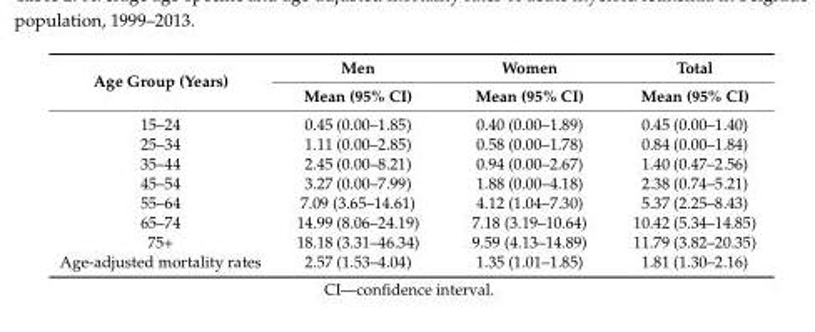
<table><thead><tr><td rowspan="2">Age Group (Years)</td><td rowspan="2">Men Mean (95% CI)</td><td rowspan="2">Women Mean (95% CI)</td><td rowspan="2">Total Mean (95% CI)</td></tr><tr></tr></thead><tbody><tr><td>15–24</td><td>0.45 (0.00–1.85)</td><td>0.40 (0.00–1.89)</td><td>0.45 (0.00–1.40)</td></tr><tr><td>25–34</td><td>1.11 (0.00–2.85)</td><td>0.58 (0.00–1.78)</td><td>0.84 (0.00–1.84)</td></tr><tr><td>35–44</td><td>2.45 (0.00–8.21)</td><td>0.94 (0.00–2.67)</td><td>1.40 (0.47–2.56)</td></tr><tr><td>45–54</td><td>3.27 (0.00–7.99)</td><td>1.88 (0.00–4.18)</td><td>2.38 (0.74–5.21)</td></tr><tr><td>55–64</td><td>7.09 (3.65–14.61)</td><td>4.12 (1.04–7.30)</td><td>5.37 (2.25–8.43)</td></tr><tr><td>65–74</td><td>14.99 (8.06–24.19)</td><td>7.18 (3.19–10.64)</td><td>10.42 (5.34–14.85)</td></tr><tr><td>75+</td><td>18.18 (3.31–46.34)</td><td>9.59 (4.13–14.89)</td><td>11.79 (3.82–20.35)</td></tr><tr><td>Age-adjusted mortality rates</td><td>2.57 (1.53–4.04)</td><td>1.35 (1.01–1.85)</td><td>1.81 (1.30–2.16)</td></tr></tbody></table>